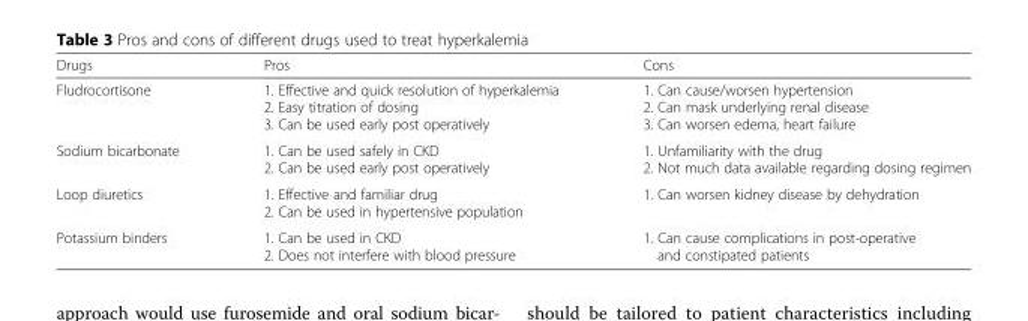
<table><thead><tr><td>Drugs</td><td>Pros</td><td>Cons</td></tr></thead><tbody><tr><td>Fludrocortisone</td><td>1. Effective and quick resolution of hyperkalemia 2. Easy titration of dosing 3. Can be used early post operatively</td><td>1. Can cause/worsen hypertension 2. Can mask underlying renal disease 3. Can worsen edema, heart failure</td></tr><tr><td>Sodium bicarbonate</td><td>1. Can be used safely in CKD 2. Can be used early post operatively</td><td>1. Unfamiliarity with the drug 2. Not much data available regarding dosing regimen</td></tr><tr><td>Loop diuretics</td><td>1. Effective and familiar drug 2. Can be used in hypertensive population</td><td>1. Can worsen kidney disease by dehydration</td></tr><tr><td>Potassium binders</td><td>1. Can be used in CKD 2. Does not interfere with blood pressure</td><td>1. Can cause complications in post-operative and constipated patients</td></tr></tbody></table>